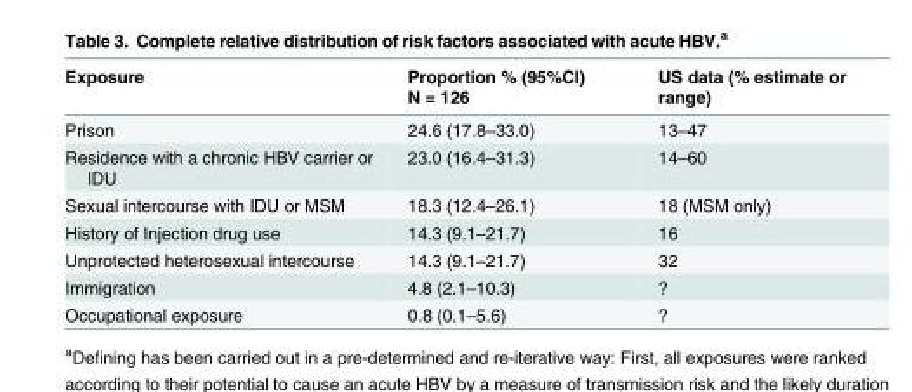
<table><thead><tr><td>Exposure</td><td>Proportion % (95%CI) N = 126</td><td>US data (% estimate or range)</td></tr></thead><tbody><tr><td>Prison</td><td>24.6 (17.8–33.0)</td><td>13–47</td></tr><tr><td>Residence with a chronic HBV carrier or IDU</td><td>23.0 (16.4–31.3)</td><td>14–60</td></tr><tr><td>Sexual intercourse with IDU or MSM</td><td>18.3 (12.4–26.1)</td><td>18 (MSM only)</td></tr><tr><td>History of Injection drug use</td><td>14.3 (9.1–21.7)</td><td>16</td></tr><tr><td>Unprotected heterosexual intercourse</td><td>14.3 (9.1–21.7)</td><td>32</td></tr><tr><td>Immigration</td><td>4.8 (2.1–10.3)</td><td>?</td></tr><tr><td>Occupational exposure</td><td>0.8 (0.1–5.6)</td><td>?</td></tr></tbody></table>